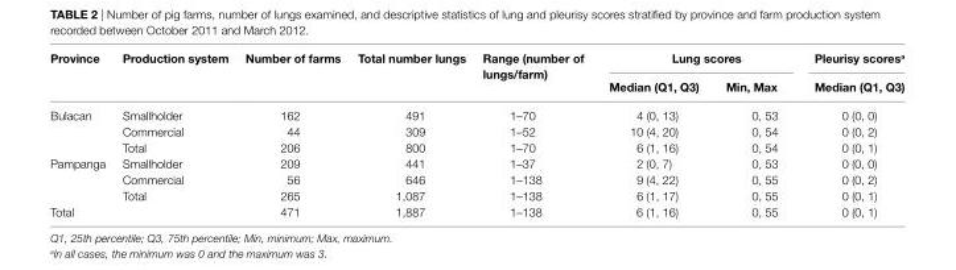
<table><thead><tr><td rowspan="2">Province</td><td rowspan="2">Production system</td><td rowspan="2">number of farms</td><td rowspan="2">Total number lungs</td><td rowspan="2">range (number of lungs/farm)</td><td colspan="2">lung scores</td><td rowspan="2">Pleurisy scores<sup>a</sup> Median (Q1, Q3)</td></tr><tr><td>Median (Q1, Q3)</td><td>Min, Max</td></tr></thead><tbody><tr><td rowspan="3">Bulacan</td><td>Smallholder</td><td>162</td><td>491</td><td>1–70</td><td>4 (0, 13)</td><td>0, 53</td><td>0 (0, 0)</td></tr><tr><td>Commercial</td><td>44</td><td>309</td><td>1–52</td><td>10 (4, 20)</td><td>0, 54</td><td>0 (0, 2)</td></tr><tr><td>Total</td><td>206</td><td>800</td><td>1–70</td><td>6 (1, 16)</td><td>0, 54</td><td>0 (0, 1)</td></tr><tr><td rowspan="3">Pampanga</td><td>Smallholder</td><td>209</td><td>441</td><td>1–37</td><td>2 (0, 7)</td><td>0, 53</td><td>0 (0, 0)</td></tr><tr><td>Commercial</td><td>56</td><td>646</td><td>1–138</td><td>9 (4, 22)</td><td>0, 55</td><td>0 (0, 2)</td></tr><tr><td>Total</td><td>265</td><td>1,087</td><td>1–138</td><td>6 (1, 17)</td><td>0, 55</td><td>0 (0, 1)</td></tr><tr><td>Total</td><td></td><td>471</td><td>1,887</td><td>1–138</td><td>6 (1, 16)</td><td>0, 55</td><td>0 (0, 1)</td></tr></tbody></table>